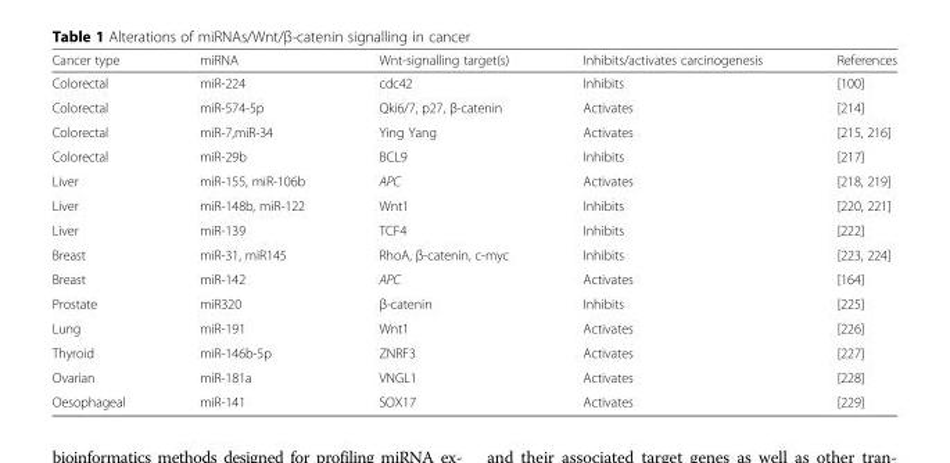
<table><thead><tr><td>Cancer type</td><td>miRNA</td><td>Wnt-signalling target(s)</td><td>Inhibits/activates carcinogenesis</td><td>References</td></tr></thead><tbody><tr><td>Colorectal</td><td>miR-224</td><td>cdc42</td><td>Inhibits</td><td>[100]</td></tr><tr><td>Colorectal</td><td>miR-574-5p</td><td>Qki6/7, p27, β-catenin</td><td>Activates</td><td>[214]</td></tr><tr><td>Colorectal</td><td>miR-7,miR-34</td><td>Ying Yang</td><td>Activates</td><td>[215, 216]</td></tr><tr><td>Colorectal</td><td>miR-29b</td><td>BCL9</td><td>Inhibits</td><td>[217]</td></tr><tr><td>Liver</td><td>miR-155, miR-106b</td><td>APC</td><td>Activates</td><td>[218, 219]</td></tr><tr><td>Liver</td><td>miR-148b, miR-122</td><td>Wnt1</td><td>Inhibits</td><td>[220, 221]</td></tr><tr><td>Liver</td><td>miR-139</td><td>TCF4</td><td>Inhibits</td><td>[222]</td></tr><tr><td>Breast</td><td>miR-31, miR145</td><td>RhoA, β-catenin, c-myc</td><td>Inhibits</td><td>[223, 224]</td></tr><tr><td>Breast</td><td>miR-142</td><td>APC</td><td>Activates</td><td>[164]</td></tr><tr><td>Prostate</td><td>miR320</td><td>β-catenin</td><td>Inhibits</td><td>[225]</td></tr><tr><td>Lung</td><td>miR-191</td><td>Wnt1</td><td>Activates</td><td>[226]</td></tr><tr><td>Thyroid</td><td>miR-146b-5p</td><td>ZNRF3</td><td>Activates</td><td>[227]</td></tr><tr><td>Ovarian</td><td>miR-181a</td><td>VNGL1</td><td>Activates</td><td>[228]</td></tr><tr><td>Oesophageal</td><td>miR-141</td><td>SOX17</td><td>Activates</td><td>[229]</td></tr></tbody></table>